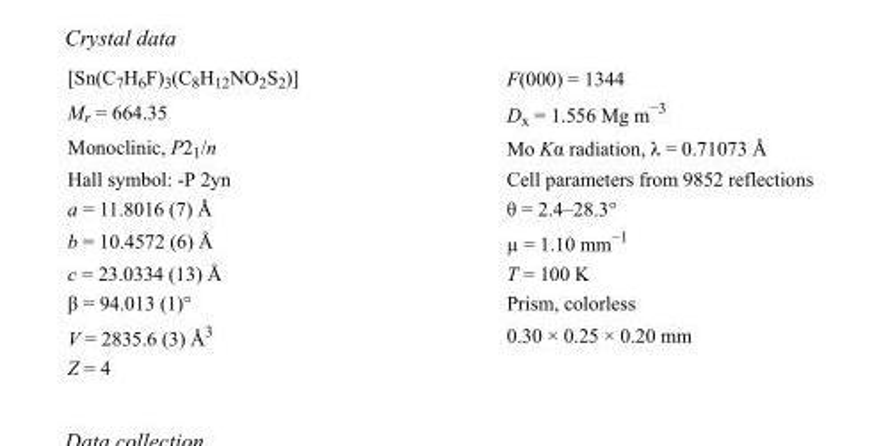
<table><tbody><tr><td>[Sn(C<sub>7</sub>H<sub>6</sub>F)<sub>3</sub>(C<sub>8</sub>H<sub>12</sub>NO<sub>2</sub>S<sub>2</sub>)]</td><td>F(000) = 1344</td></tr><tr><td>M<sub>r</sub> = 664.35</td><td>D<sub>x</sub> = 1.556 Mg m<sup>−3</sup></td></tr><tr><td>Monoclinic, P2<sub>1</sub>/n</td><td>Mo Kα radiation, λ = 0.71073 Å</td></tr><tr><td>Hall symbol: -P 2yn</td><td>Cell parameters from 9852 reflections</td></tr><tr><td>a = 11.8016 (7) Å</td><td>θ = 2.4–28.3°</td></tr><tr><td>b = 10.4572 (6) Å</td><td>µ = 1.10 mm<sup>−1</sup></td></tr><tr><td>c = 23.0334 (13) Å</td><td>T = 100 K</td></tr><tr><td>β = 94.013 (1)°</td><td>Prism, colorless</td></tr><tr><td>V = 2835.6 (3) Å<sup>3</sup></td><td>0.30 × 0.25 × 0.20 mm</td></tr><tr><td>Z = 4</td><td></td></tr></tbody></table>